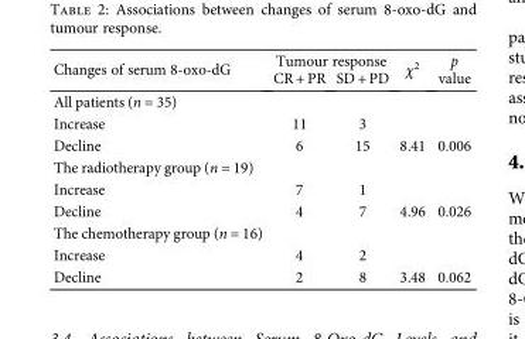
<table><thead><tr><td rowspan="2">Changes of serum 8-oxo-dG</td><td colspan="2">Tumour response</td><td rowspan="2">χ<sup>2</sup></td><td rowspan="2">p value</td></tr><tr><td>CR + PR</td><td>SD + PD</td></tr></thead><tbody><tr><td colspan="5">All patients (n = 35)</td></tr><tr><td>Increase</td><td>11</td><td>3</td><td></td><td></td></tr><tr><td>Decline</td><td>6</td><td>15</td><td>8.41</td><td>0.006</td></tr><tr><td colspan="5">The radiotherapy group (n = 19)</td></tr><tr><td>Increase</td><td>7</td><td>1</td><td></td><td></td></tr><tr><td>Decline</td><td>4</td><td>7</td><td>4.96</td><td>0.026</td></tr><tr><td colspan="5">The chemotherapy group (n = 16)</td></tr><tr><td>Increase</td><td>4</td><td>2</td><td></td><td></td></tr><tr><td>Decline</td><td>2</td><td>8</td><td>3.48</td><td>0.062</td></tr></tbody></table>